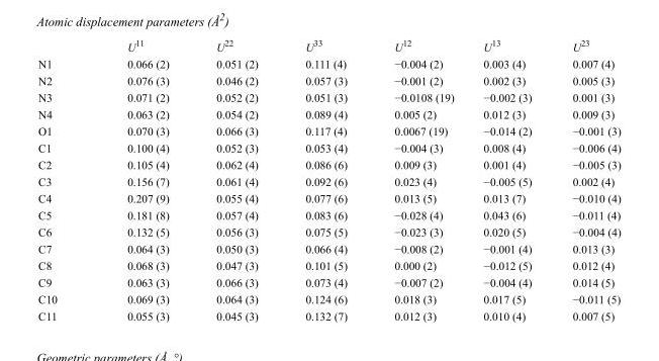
<table><thead><tr><td></td><td>U<sup>11</sup></td><td>U<sup>22</sup></td><td>U<sup>33</sup></td><td>U<sup>12</sup></td><td>U<sup>13</sup></td><td>U<sup>23</sup></td></tr></thead><tbody><tr><td>N1</td><td>0.066 (2)</td><td>0.051 (2)</td><td>0.111 (4)</td><td>−0.004 (2)</td><td>0.003 (4)</td><td>0.007 (4)</td></tr><tr><td>N2</td><td>0.076 (3)</td><td>0.046 (2)</td><td>0.057 (3)</td><td>−0.001 (2)</td><td>0.002 (3)</td><td>0.005 (3)</td></tr><tr><td>N3</td><td>0.071 (2)</td><td>0.052 (2)</td><td>0.051 (3)</td><td>−0.0108 (19)</td><td>−0.002 (3)</td><td>0.001 (3)</td></tr><tr><td>N4</td><td>0.063 (2)</td><td>0.054 (2)</td><td>0.089 (4)</td><td>0.005 (2)</td><td>0.012 (3)</td><td>0.009 (3)</td></tr><tr><td>O1</td><td>0.070 (3)</td><td>0.066 (3)</td><td>0.117 (4)</td><td>0.0067 (19)</td><td>−0.014 (2)</td><td>−0.001 (3)</td></tr><tr><td>C1</td><td>0.100 (4)</td><td>0.052 (3)</td><td>0.053 (4)</td><td>−0.004 (3)</td><td>0.008 (4)</td><td>−0.006 (4)</td></tr><tr><td>C2</td><td>0.105 (4)</td><td>0.062 (4)</td><td>0.086 (6)</td><td>0.009 (3)</td><td>0.001 (4)</td><td>−0.005 (3)</td></tr><tr><td>C3</td><td>0.156 (7)</td><td>0.061 (4)</td><td>0.092 (6)</td><td>0.023 (4)</td><td>−0.005 (5)</td><td>0.002 (4)</td></tr><tr><td>C4</td><td>0.207 (9)</td><td>0.055 (4)</td><td>0.077 (6)</td><td>0.013 (5)</td><td>0.013 (7)</td><td>−0.010 (4)</td></tr><tr><td>C5</td><td>0.181 (8)</td><td>0.057 (4)</td><td>0.083 (6)</td><td>−0.028 (4)</td><td>0.043 (6)</td><td>−0.011 (4)</td></tr><tr><td>C6</td><td>0.132 (5)</td><td>0.056 (3)</td><td>0.075 (5)</td><td>−0.023 (3)</td><td>0.020 (5)</td><td>−0.004 (4)</td></tr><tr><td>C7</td><td>0.064 (3)</td><td>0.050 (3)</td><td>0.066 (4)</td><td>−0.008 (2)</td><td>−0.001 (4)</td><td>0.013 (3)</td></tr><tr><td>C8</td><td>0.068 (3)</td><td>0.047 (3)</td><td>0.101 (5)</td><td>0.000 (2)</td><td>−0.012 (5)</td><td>0.012 (4)</td></tr><tr><td>C9</td><td>0.063 (3)</td><td>0.066 (3)</td><td>0.073 (4)</td><td>−0.007 (2)</td><td>−0.004 (4)</td><td>0.014 (5)</td></tr><tr><td>C10</td><td>0.069 (3)</td><td>0.064 (3)</td><td>0.124 (6)</td><td>0.018 (3)</td><td>0.017 (5)</td><td>−0.011 (5)</td></tr><tr><td>C11</td><td>0.055 (3)</td><td>0.045 (3)</td><td>0.132 (7)</td><td>0.012 (3)</td><td>0.010 (4)</td><td>0.007 (5)</td></tr></tbody></table>